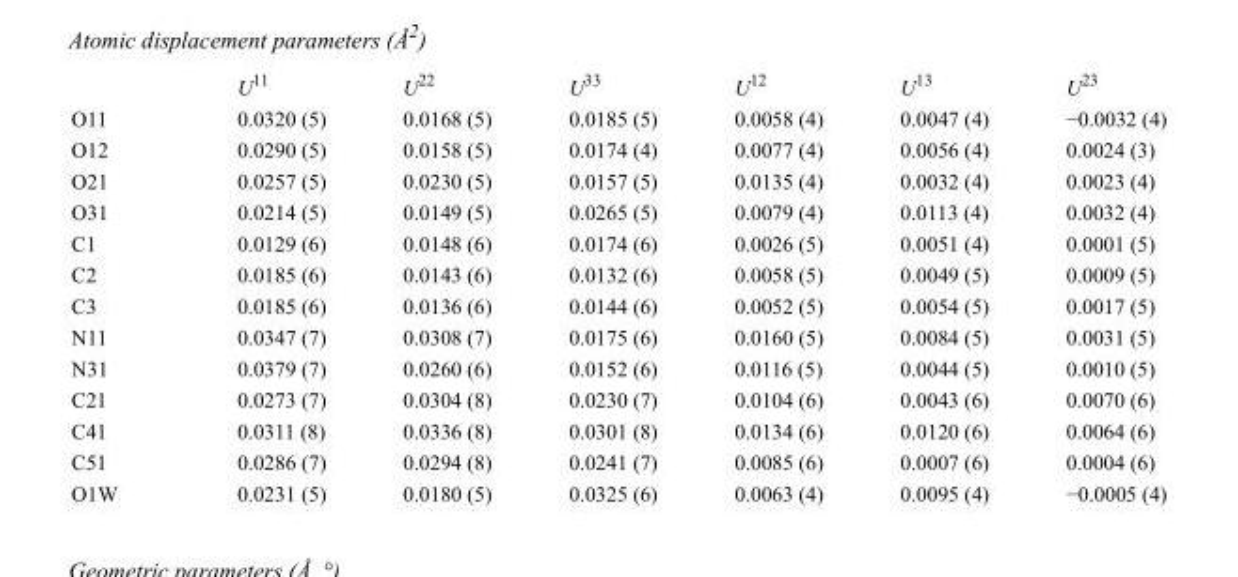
<table><thead><tr><td></td><td>U<sup>11</sup></td><td>U<sup>22</sup></td><td>U<sup>33</sup></td><td>U<sup>12</sup></td><td>U<sup>13</sup></td><td>U<sup>23</sup></td></tr></thead><tbody><tr><td>O11</td><td>0.0320 (5)</td><td>0.0168 (5)</td><td>0.0185 (5)</td><td>0.0058 (4)</td><td>0.0047 (4)</td><td>−0.0032 (4)</td></tr><tr><td>O12</td><td>0.0290 (5)</td><td>0.0158 (5)</td><td>0.0174 (4)</td><td>0.0077 (4)</td><td>0.0056 (4)</td><td>0.0024 (3)</td></tr><tr><td>O21</td><td>0.0257 (5)</td><td>0.0230 (5)</td><td>0.0157 (5)</td><td>0.0135 (4)</td><td>0.0032 (4)</td><td>0.0023 (4)</td></tr><tr><td>O31</td><td>0.0214 (5)</td><td>0.0149 (5)</td><td>0.0265 (5)</td><td>0.0079 (4)</td><td>0.0113 (4)</td><td>0.0032 (4)</td></tr><tr><td>C1</td><td>0.0129 (6)</td><td>0.0148 (6)</td><td>0.0174 (6)</td><td>0.0026 (5)</td><td>0.0051 (4)</td><td>0.0001 (5)</td></tr><tr><td>C2</td><td>0.0185 (6)</td><td>0.0143 (6)</td><td>0.0132 (6)</td><td>0.0058 (5)</td><td>0.0049 (5)</td><td>0.0009 (5)</td></tr><tr><td>C3</td><td>0.0185 (6)</td><td>0.0136 (6)</td><td>0.0144 (6)</td><td>0.0052 (5)</td><td>0.0054 (5)</td><td>0.0017 (5)</td></tr><tr><td>N11</td><td>0.0347 (7)</td><td>0.0308 (7)</td><td>0.0175 (6)</td><td>0.0160 (5)</td><td>0.0084 (5)</td><td>0.0031 (5)</td></tr><tr><td>N31</td><td>0.0379 (7)</td><td>0.0260 (6)</td><td>0.0152 (6)</td><td>0.0116 (5)</td><td>0.0044 (5)</td><td>0.0010 (5)</td></tr><tr><td>C21</td><td>0.0273 (7)</td><td>0.0304 (8)</td><td>0.0230 (7)</td><td>0.0104 (6)</td><td>0.0043 (6)</td><td>0.0070 (6)</td></tr><tr><td>C41</td><td>0.0311 (8)</td><td>0.0336 (8)</td><td>0.0301 (8)</td><td>0.0134 (6)</td><td>0.0120 (6)</td><td>0.0064 (6)</td></tr><tr><td>C51</td><td>0.0286 (7)</td><td>0.0294 (8)</td><td>0.0241 (7)</td><td>0.0085 (6)</td><td>0.0007 (6)</td><td>0.0004 (6)</td></tr><tr><td>O1W</td><td>0.0231 (5)</td><td>0.0180 (5)</td><td>0.0325 (6)</td><td>0.0063 (4)</td><td>0.0095 (4)</td><td>−0.0005 (4)</td></tr></tbody></table>